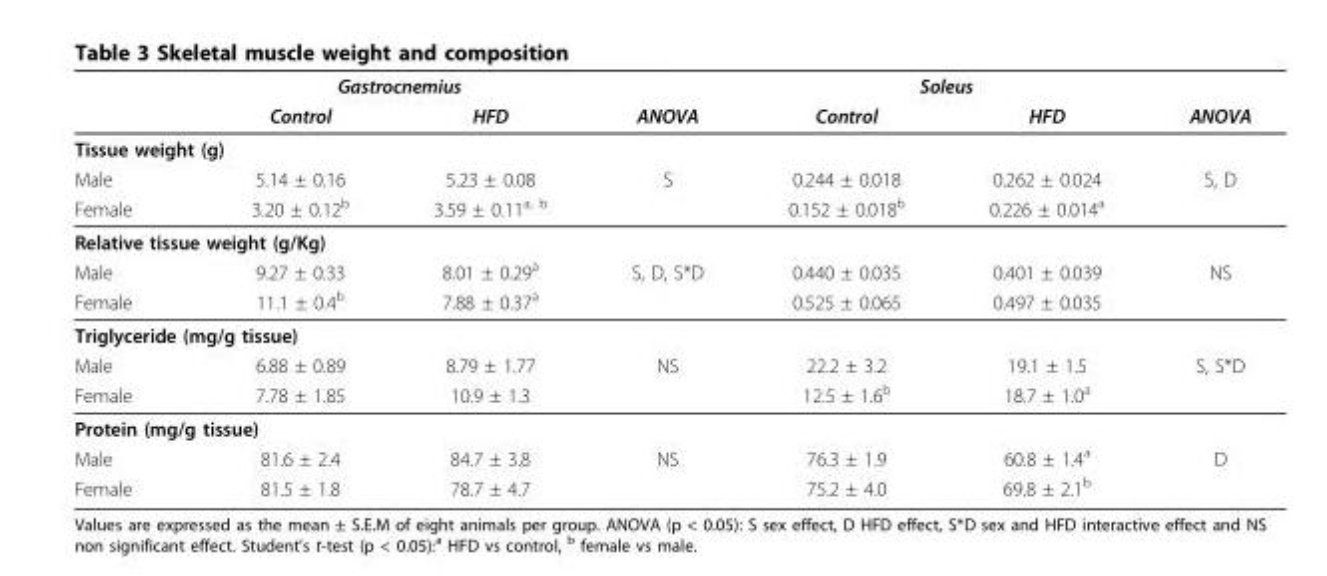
<table><thead><tr><td rowspan="2"></td><td colspan="2">Gastrocnemius</td><td rowspan="2">ANOVA</td><td colspan="2">Soleus</td><td rowspan="2">ANOVA</td></tr><tr><td>Control</td><td>HFD</td><td>Control</td><td>HFD</td></tr></thead><tbody><tr><td colspan="7">Tissue weight (g)</td></tr><tr><td>Male</td><td>5.14 ± 0.16</td><td>5.23 ± 0.08</td><td>S</td><td>0.244 ± 0.018</td><td>0.262 ± 0.024</td><td>S, D</td></tr><tr><td>Female</td><td>3.20 ± 0.12<sup>b</sup></td><td>3.59 ± 0.11<sup>a, b</sup></td><td></td><td>0.152 ± 0.018<sup>b</sup></td><td>0.226 ± 0.014<sup>a</sup></td><td></td></tr><tr><td colspan="7">Relative tissue weight (g/Kg)</td></tr><tr><td>Male</td><td>9.27 ± 0.33</td><td>8.01 ± 0.29<sup>a</sup></td><td>S, D, S*D</td><td>0.440 ± 0.035</td><td>0.401 ± 0.039</td><td>NS</td></tr><tr><td>Female</td><td>11.1 ± 0.4<sup>b</sup></td><td>7.88 ± 0.37<sup>a</sup></td><td></td><td>0.525 ± 0.065</td><td>0.497 ± 0.035</td><td></td></tr><tr><td colspan="7">Triglyceride (mg/g tissue)</td></tr><tr><td>Male</td><td>6.88 ± 0.89</td><td>8.79 ± 1.77</td><td>NS</td><td>22.2 ± 3.2</td><td>19.1 ± 1.5</td><td>S, S*D</td></tr><tr><td>Female</td><td>7.78 ± 1.85</td><td>10.9 ± 1.3</td><td></td><td>12.5 ± 1.6<sup>b</sup></td><td>18.7 ± 1.0<sup>a</sup></td><td></td></tr><tr><td colspan="7">Protein (mg/g tissue)</td></tr><tr><td>Male</td><td>81.6 ± 2.4</td><td>84.7 ± 3.8</td><td>NS</td><td>76.3 ± 1.9</td><td>60.8 ± 1.4<sup>a</sup></td><td>D</td></tr><tr><td>Female</td><td>81.5 ± 1.8</td><td>78.7 ± 4.7</td><td></td><td>75.2 ± 4.0</td><td>69.8 ± 2.1<sup>b</sup></td><td></td></tr></tbody></table>